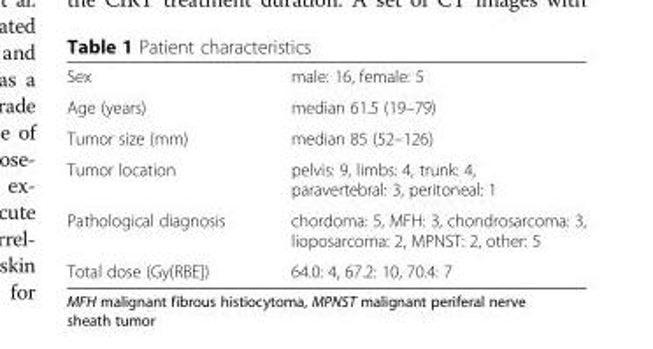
<table><tbody><tr><td>Sex</td><td>male: 16, female: 5</td></tr><tr><td>Age (years)</td><td>median 61.5 (19–79)</td></tr><tr><td>Tumor size (mm)</td><td>median 85 (52–126)</td></tr><tr><td>Tumor location</td><td>pelvis: 9, limbs: 4, trunk: 4, paravertebral: 3, peritoneal: 1</td></tr><tr><td>Pathological diagnosis</td><td>chordoma: 5, MFH: 3, chondrosarcoma: 3, lioposarcoma: 2, MPNST: 2, other: 5</td></tr><tr><td>Total dose (Gy(RBE])</td><td>64.0: 4, 67.2: 10, 70.4: 7</td></tr></tbody></table>